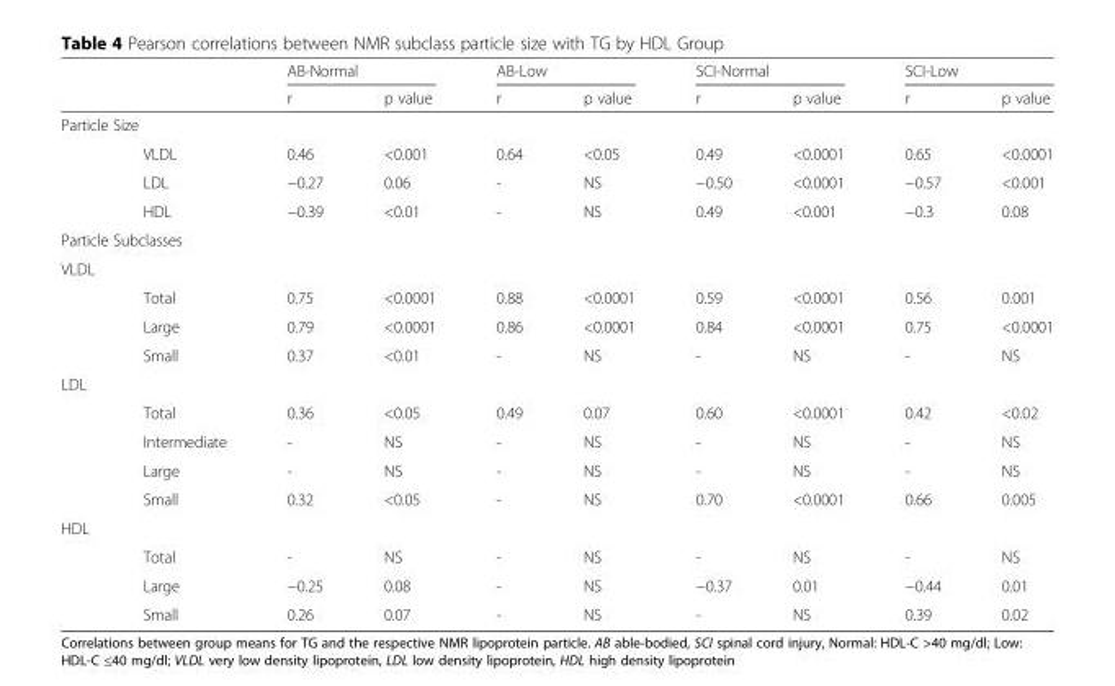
<table><thead><tr><td rowspan="2"></td><td colspan="2">AB-Normal</td><td colspan="2">AB-Low</td><td colspan="2">SCI-Normal</td><td colspan="2">SCI-Low</td></tr><tr><td>r</td><td>p value</td><td>r</td><td>p value</td><td>r</td><td>p value</td><td>r</td><td>p value</td></tr></thead><tbody><tr><td colspan="9">Particle Size</td></tr><tr><td>VLDL</td><td>0.46</td><td>&lt;0.001</td><td>0.64</td><td>&lt;0.05</td><td>0.49</td><td>&lt;0.0001</td><td>0.65</td><td>&lt;0.0001</td></tr><tr><td>LDL</td><td>−0.27</td><td>0.06</td><td>-</td><td>NS</td><td>−0.50</td><td>&lt;0.0001</td><td>−0.57</td><td>&lt;0.001</td></tr><tr><td>HDL</td><td>−0.39</td><td>&lt;0.01</td><td>-</td><td>NS</td><td>0.49</td><td>&lt;0.001</td><td>−0.3</td><td>0.08</td></tr><tr><td colspan="9">Particle Subclasses</td></tr><tr><td colspan="9">VLDL</td></tr><tr><td>Total</td><td>0.75</td><td>&lt;0.0001</td><td>0.88</td><td>&lt;0.0001</td><td>0.59</td><td>&lt;0.0001</td><td>0.56</td><td>0.001</td></tr><tr><td>Large</td><td>0.79</td><td>&lt;0.0001</td><td>0.86</td><td>&lt;0.0001</td><td>0.84</td><td>&lt;0.0001</td><td>0.75</td><td>&lt;0.0001</td></tr><tr><td>Small</td><td>0.37</td><td>&lt;0.01</td><td>-</td><td>NS</td><td>-</td><td>NS</td><td>-</td><td>NS</td></tr><tr><td colspan="9">LDL</td></tr><tr><td>Total</td><td>0.36</td><td>&lt;0.05</td><td>0.49</td><td>0.07</td><td>0.60</td><td>&lt;0.0001</td><td>0.42</td><td>&lt;0.02</td></tr><tr><td>Intermediate</td><td>-</td><td>NS</td><td>-</td><td>NS</td><td>-</td><td>NS</td><td>-</td><td>NS</td></tr><tr><td>Large</td><td>-</td><td>NS</td><td>-</td><td>NS</td><td>-</td><td>NS</td><td>-</td><td>NS</td></tr><tr><td>Small</td><td>0.32</td><td>&lt;0.05</td><td>-</td><td>NS</td><td>0.70</td><td>&lt;0.0001</td><td>0.66</td><td>0.005</td></tr><tr><td colspan="9">HDL</td></tr><tr><td>Total</td><td>-</td><td>NS</td><td>-</td><td>NS</td><td>-</td><td>NS</td><td>-</td><td>NS</td></tr><tr><td>Large</td><td>−0.25</td><td>0.08</td><td>-</td><td>NS</td><td>−0.37</td><td>0.01</td><td>−0.44</td><td>0.01</td></tr><tr><td>Small</td><td>0.26</td><td>0.07</td><td>-</td><td>NS</td><td>-</td><td>NS</td><td>0.39</td><td>0.02</td></tr></tbody></table>